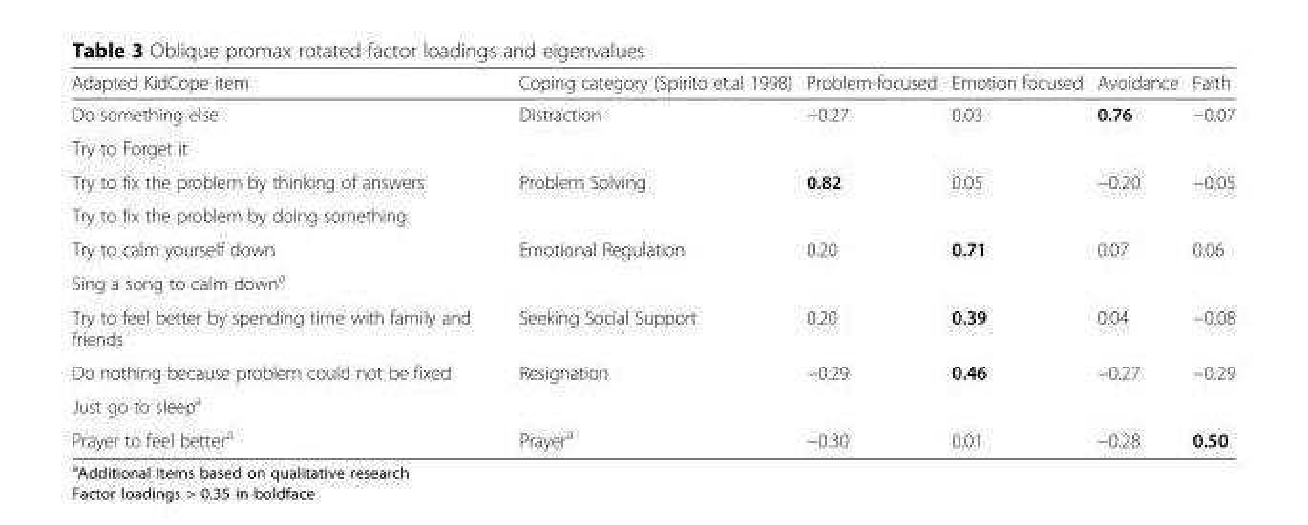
<table><thead><tr><td>Adapted KidCope item</td><td>Coping category (Spirito et.al 1998)</td><td>Problem-focused</td><td>Emotion focused</td><td>Avoidance</td><td>Faith</td></tr></thead><tbody><tr><td>Do something else</td><td>Distraction</td><td>−0.27</td><td>0.03</td><td>0.76</td><td>−0.07</td></tr><tr><td colspan="6">Try to Forget it</td></tr><tr><td>Try to fix the problem by thinking of answers</td><td>Problem Solving</td><td>0.82</td><td>0.05</td><td>−0.20</td><td>−0.05</td></tr><tr><td colspan="6">Try to fix the problem by doing something</td></tr><tr><td>Try to calm yourself down</td><td>Emotional Regulation</td><td>0.20</td><td>0.71</td><td>0.07</td><td>0.06</td></tr><tr><td colspan="6">Sing a song to calm down<sup>a</sup></td></tr><tr><td>Try to feel better by spending time with family and friends</td><td>Seeking Social Support</td><td>0.20</td><td>0.39</td><td>0.04</td><td>−0.08</td></tr><tr><td>Do nothing because problem could not be fixed</td><td>Resignation</td><td>−0.29</td><td>0.46</td><td>−0.27</td><td>−0.29</td></tr><tr><td colspan="6">Just go to sleep<sup>a</sup></td></tr><tr><td>Prayer to feel better<sup>a</sup></td><td>Prayer<sup>a</sup></td><td>−0.30</td><td>0.01</td><td>−0.28</td><td>0.50</td></tr></tbody></table>